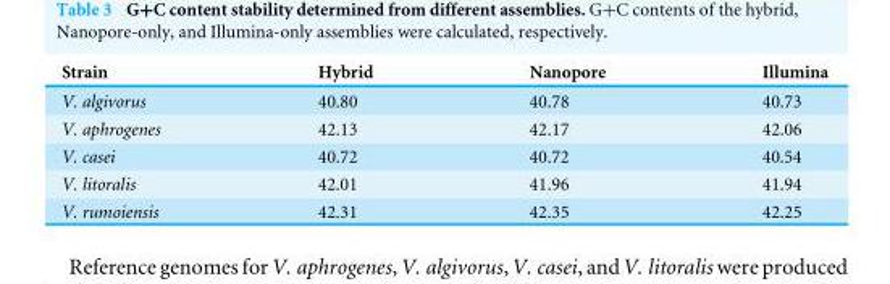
<table><thead><tr><td>Strain</td><td>Hybrid</td><td>Nanopore</td><td>Illumina</td></tr></thead><tbody><tr><td>V. algivorus</td><td>40.80</td><td>40.78</td><td>40.73</td></tr><tr><td>V. aphrogenes</td><td>42.13</td><td>42.17</td><td>42.06</td></tr><tr><td>V. casei</td><td>40.72</td><td>40.72</td><td>40.54</td></tr><tr><td>V. litoralis</td><td>42.01</td><td>41.96</td><td>41.94</td></tr><tr><td>V. rumoiensis</td><td>42.31</td><td>42.35</td><td>42.25</td></tr></tbody></table>